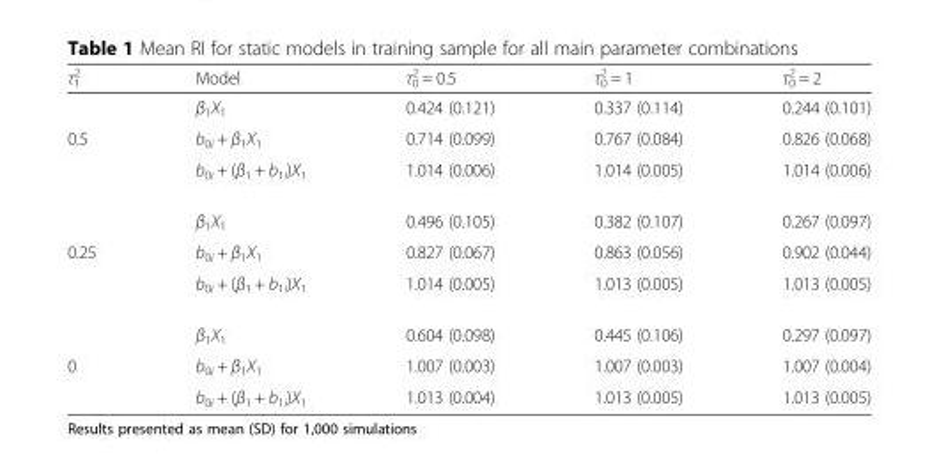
<table><thead><tr><td>τ<sub>1</sub> <sup>2</sup></td><td>Model</td><td>τ<sub>0</sub> <sup>2</sup> = 0.5</td><td>τ<sub>0</sub> <sup>2</sup> = 1</td><td>τ<sub>0</sub> <sup>2</sup> = 2</td></tr></thead><tbody><tr><td></td><td>β<sub>1</sub>X<sub>1</sub></td><td>0.424 (0.121)</td><td>0.337 (0.114)</td><td>0.244 (0.101)</td></tr><tr><td rowspan="3">0.5</td><td>b<sub>0i</sub> + β<sub>1</sub>X<sub>1</sub></td><td>0.714 (0.099)</td><td>0.767 (0.084)</td><td>0.826 (0.068)</td></tr><tr><td>b<sub>0i</sub> + (β<sub>1</sub> + b<sub>1i</sub>)X<sub>1</sub></td><td>1.014 (0.006)</td><td>1.014 (0.005)</td><td>1.014 (0.006)</td></tr><tr><td>β<sub>1</sub>X<sub>1</sub></td><td>0.496 (0.105)</td><td>0.382 (0.107)</td><td>0.267 (0.097)</td></tr><tr><td rowspan="3">0.25</td><td>b<sub>0i</sub> + β<sub>1</sub>X<sub>1</sub></td><td>0.827 (0.067)</td><td>0.863 (0.056)</td><td>0.902 (0.044)</td></tr><tr><td>b<sub>0i</sub> + (β<sub>1</sub> + b<sub>1i</sub>)X<sub>1</sub></td><td>1.014 (0.005)</td><td>1.013 (0.005)</td><td>1.013 (0.005)</td></tr><tr><td>β<sub>1</sub>X<sub>1</sub></td><td>0.604 (0.098)</td><td>0.445 (0.106)</td><td>0.297 (0.097)</td></tr><tr><td rowspan="2">0</td><td>b<sub>0i</sub> + β<sub>1</sub>X<sub>1</sub></td><td>1.007 (0.003)</td><td>1.007 (0.003)</td><td>1.007 (0.004)</td></tr><tr><td>b<sub>0i</sub> + (β<sub>1</sub> + b<sub>1i</sub>)X<sub>1</sub></td><td>1.013 (0.004)</td><td>1.013 (0.005)</td><td>1.013 (0.005)</td></tr></tbody></table>